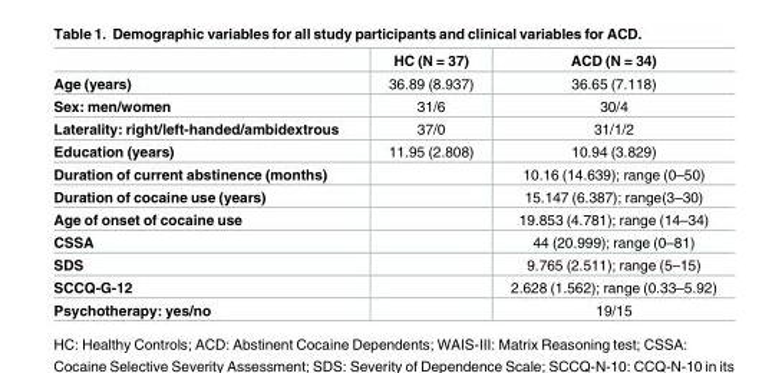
<table><thead><tr><td></td><td>HC (N = 37)</td><td>ACD (N = 34)</td></tr></thead><tbody><tr><td>Age (years)</td><td>36.89 (8.937)</td><td>36.65 (7.118)</td></tr><tr><td>Sex: men/women</td><td>31/6</td><td>30/4</td></tr><tr><td>Laterality: right/left-handed/ambidextrous</td><td>37/0</td><td>31/1/2</td></tr><tr><td>Education (years)</td><td>11.95 (2.808)</td><td>10.94 (3.829)</td></tr><tr><td>Duration of current abstinence (months)</td><td></td><td>10.16 (14.639); range (0–50)</td></tr><tr><td>Duration of cocaine use (years)</td><td></td><td>15.147 (6.387); range(3–30)</td></tr><tr><td>Age of onset of cocaine use</td><td></td><td>19.853 (4.781); range (14–34)</td></tr><tr><td>CSSA</td><td></td><td>44 (20.999); range (0–81)</td></tr><tr><td>SDS</td><td></td><td>9.765 (2.511); range (5–15)</td></tr><tr><td>SCCQ-G-12</td><td></td><td>2.628 (1.562); range (0.33–5.92)</td></tr><tr><td>Psychotherapy: yes/no</td><td></td><td>19/15</td></tr></tbody></table>